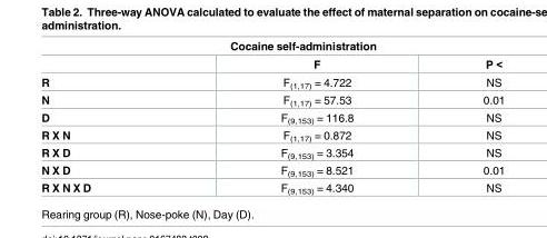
<table><thead><tr><td colspan="3">Cocaine self-administration</td></tr><tr><td></td><td>F</td><td>P &lt;</td></tr></thead><tbody><tr><td>R</td><td>F<sub>(1,17)</sub> = 4.722</td><td>NS</td></tr><tr><td>N</td><td>F<sub>(1,17)</sub> = 57.53</td><td>0.01</td></tr><tr><td>D</td><td>F<sub>(9,153)</sub> = 116.8</td><td>NS</td></tr><tr><td>R X N</td><td>F<sub>(1,17)</sub> = 0.872</td><td>NS</td></tr><tr><td>R X D</td><td>F<sub>(9,153)</sub> = 3.354</td><td>NS</td></tr><tr><td>N X D</td><td>F<sub>(9,153)</sub> = 8.521</td><td>0.01</td></tr><tr><td>R X N X D</td><td>F<sub>(9,153)</sub> = 4.340</td><td>NS</td></tr></tbody></table>